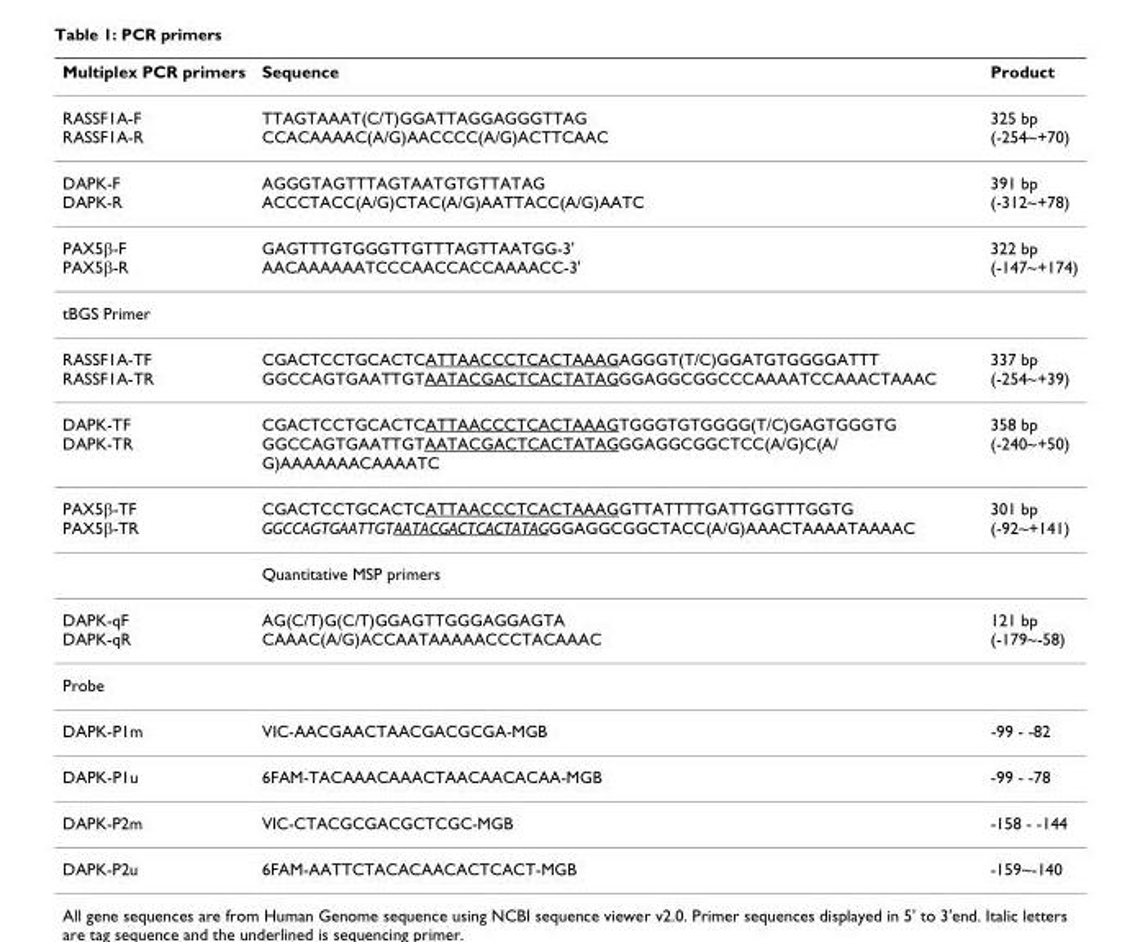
<table><thead><tr><td>Multiplex PCR primers</td><td>Sequence</td><td>Product</td></tr></thead><tbody><tr><td>RASSF1A-F RASSF1A-R</td><td>TTAGTAAAT(C/T)GGATTAGGAGGGTTAG CCACAAAAC(A/G)AACCCC(A/G)ACTTCAAC</td><td>325 bp (-254~+70)</td></tr><tr><td>DAPK-F DAPK-R</td><td>AGGGTAGTTTAGTAATGTGTTATAG ACCCTACC(A/G)CTAC(A/G)AATTACC(A/G)AATC</td><td>391 bp (-312~+78)</td></tr><tr><td>PAX5β-F PAX5β-R</td><td>GAGTTTGTGGGTTGTTTAGTTAATGG-3&#x27; AACAAAAAATCCCAACCACCAAAACC-3&#x27;</td><td>322 bp (-147~+174)</td></tr><tr><td colspan="3">tBGS Primer</td></tr><tr><td>RASSF1A-TF RASSF1A-TR</td><td>CGACTCCTGCACTCATTAACCCTCACTAAAGAGGGT(T/C)GGATGTGGGGATTT GGCCAGTGAATTGTAATACGACTCACTATAGGGAGGCGGCCCAAAATCCAAACTAAAC</td><td>337 bp (-254~+39)</td></tr><tr><td>DAPK-TF DAPK-TR</td><td>CGACTCCTGCACTCATTAACCCTCACTAAAGTGGGTGTGGGG(T/C)GAGTGGGTG GGCCAGTGAATTGTAATACGACTCACTATAGGGAGGCGGCTCC(A/G)C(A/ G)AAAAAAACAAAATC</td><td>358 bp (-240~+50)</td></tr><tr><td rowspan="2">PAX5β-TF PAX5β-TR</td><td>CGACTCCTGCACTCATTAACCCTCACTAAAGGTTATTTTGATTGGTTTGGTG GGCCAGTGAATTGTAATACGACTCACTATAGGGAGGCGGCTACC(A/G)AAACTAAAATAAAAC</td><td>301 bp (-92~+141)</td></tr><tr><td>Quantitative MSP primers</td><td></td></tr><tr><td>DAPK-qF DAPK-qR</td><td>AG(C/T)G(C/T)GGAGTTGGGAGGAGTA CAAAC(A/G)ACCAATAAAAACCCTACAAAC</td><td>121 bp (-179~-58)</td></tr><tr><td colspan="3">Probe</td></tr><tr><td>DAPK-P1m</td><td>VIC-AACGAACTAACGACGCGA-MGB</td><td>-99 - -82</td></tr><tr><td>DAPK-P1u</td><td>6FAM-TACAAACAAACTAACAACACAA-MGB</td><td>-99 - -78</td></tr><tr><td>DAPK-P2m</td><td>VIC-CTACGCGACGCTCGC-MGB</td><td>-158 - -144</td></tr><tr><td>DAPK-P2u</td><td>6FAM-AATTCTACACAACACTCACT-MGB</td><td>-159~-140</td></tr></tbody></table>